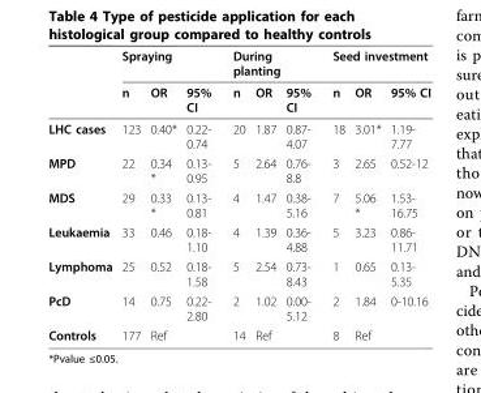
<table><thead><tr><td rowspan="2"></td><td colspan="3">Spraying</td><td colspan="3">During planting</td><td colspan="3">Seed investment</td></tr><tr><td>n</td><td>OR</td><td>95% CI</td><td>n</td><td>OR</td><td>95% CI</td><td>n</td><td>OR</td><td>95% CI</td></tr></thead><tbody><tr><td>LHC cases</td><td>123</td><td>0.40*</td><td>0.22- 0.74</td><td>20</td><td>1.87</td><td>0.87- 4.07</td><td>18</td><td>3.01*</td><td>1.19- 7.77</td></tr><tr><td>MPD</td><td>22</td><td>0.34 *</td><td>0.13- 0.95</td><td>5</td><td>2.64</td><td>0.76- 8.8</td><td>3</td><td>2.65</td><td>0.52-12</td></tr><tr><td>MDS</td><td>29</td><td>0.33 *</td><td>0.13- 0.81</td><td>4</td><td>1.47</td><td>0.38- 5.16</td><td>7</td><td>5.06 *</td><td>1.53- 16.75</td></tr><tr><td>Leukaemia</td><td>33</td><td>0.46</td><td>0.18- 1.10</td><td>4</td><td>1.39</td><td>0.36- 4.88</td><td>5</td><td>3.23</td><td>0.86- 11.71</td></tr><tr><td>Lymphoma</td><td>25</td><td>0.52</td><td>0.18- 1.58</td><td>5</td><td>2.54</td><td>0.73- 8.43</td><td>1</td><td>0.65</td><td>0.13- 5.35</td></tr><tr><td>PcD</td><td>14</td><td>0.75</td><td>0.22- 2.80</td><td>2</td><td>1.02</td><td>0.00- 5.12</td><td>2</td><td>1.84</td><td>0-10.16</td></tr><tr><td>Controls</td><td>177</td><td>Ref</td><td></td><td>14</td><td>Ref</td><td></td><td>8</td><td>Ref</td><td></td></tr></tbody></table>